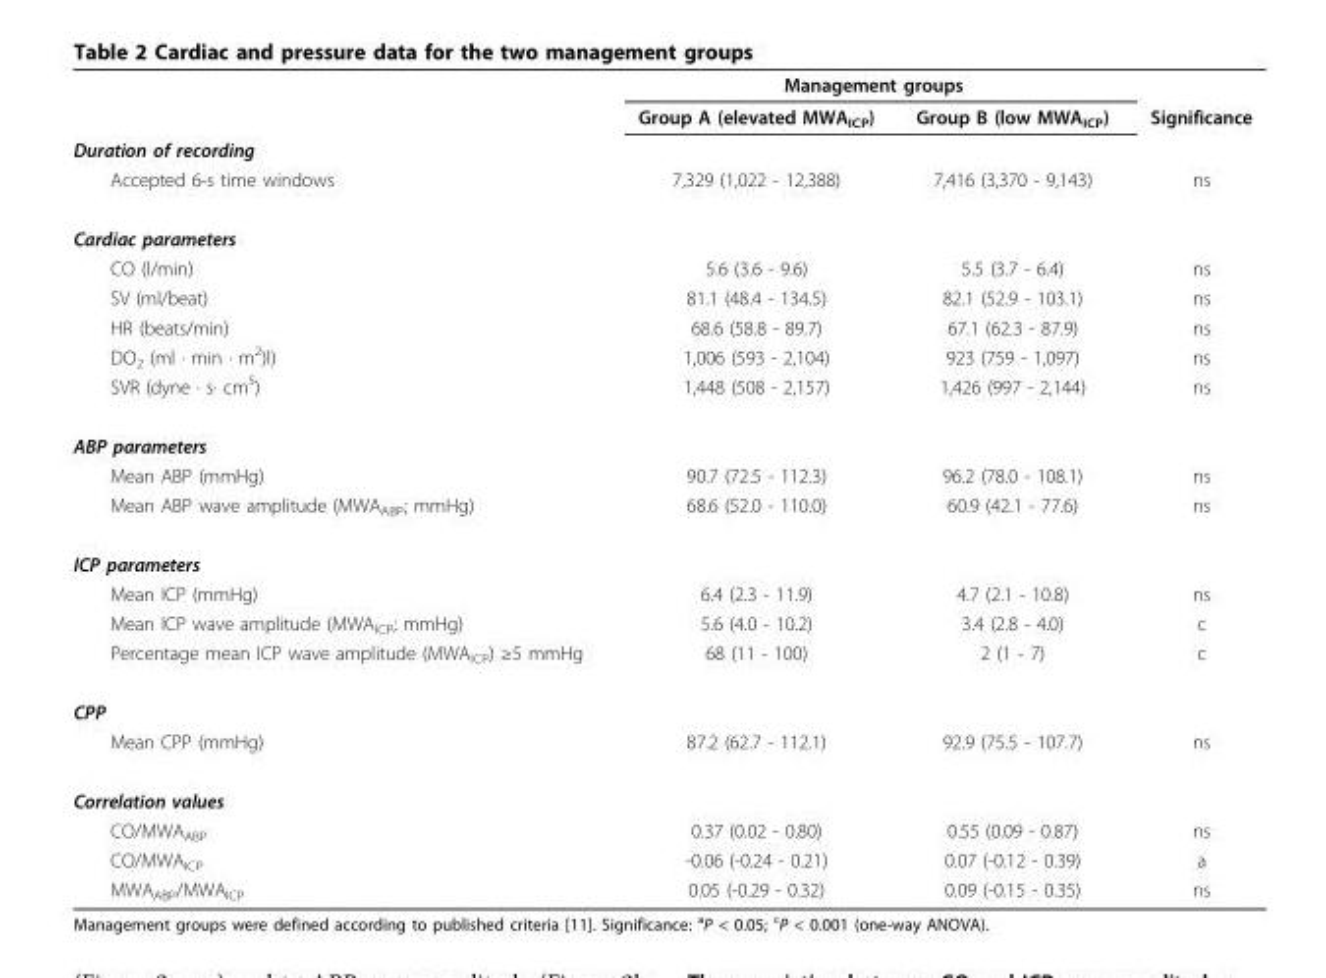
<table><thead><tr><td rowspan="2"></td><td colspan="2">Management groups</td><td rowspan="2">Significance</td></tr><tr><td>Group A (elevated MWA<sub>ICP</sub>)</td><td>Group B (low MWA<sub>ICP</sub>)</td></tr></thead><tbody><tr><td colspan="4">Duration of recording</td></tr><tr><td>Accepted 6-s time windows</td><td>7,329 (1,022 - 12,388)</td><td>7,416 (3,370 - 9,143)</td><td>ns</td></tr><tr><td colspan="4">Cardiac parameters</td></tr><tr><td>CO (l/min)</td><td>5.6 (3.6 - 9.6)</td><td>5.5 (3.7 - 6.4)</td><td>ns</td></tr><tr><td>SV (ml/beat)</td><td>81.1 (48.4 - 134.5)</td><td>82.1 (52.9 - 103.1)</td><td>ns</td></tr><tr><td>HR (beats/min)</td><td>68.6 (58.8 - 89.7)</td><td>67.1 (62.3 - 87.9)</td><td>ns</td></tr><tr><td>DO<sub>2</sub> (ml ∙ min ∙ m<sup>2</sup>)l)</td><td>1,006 (593 - 2,104)</td><td>923 (759 - 1,097)</td><td>ns</td></tr><tr><td>SVR (dyne ∙ s∙ cm<sup>5</sup>)</td><td>1,448 (508 - 2,157)</td><td>1,426 (997 - 2,144)</td><td>ns</td></tr><tr><td colspan="4">ABP parameters</td></tr><tr><td>Mean ABP (mmHg)</td><td>90.7 (72.5 - 112.3)</td><td>96.2 (78.0 - 108.1)</td><td>ns</td></tr><tr><td>Mean ABP wave amplitude (MWA<sub>ABP</sub>; mmHg)</td><td>68.6 (52.0 - 110.0)</td><td>60.9 (42.1 - 77.6)</td><td>ns</td></tr><tr><td colspan="4">ICP parameters</td></tr><tr><td>Mean ICP (mmHg)</td><td>6.4 (2.3 - 11.9)</td><td>4.7 (2.1 - 10.8)</td><td>ns</td></tr><tr><td>Mean ICP wave amplitude (MWA<sub>ICP</sub>; mmHg)</td><td>5.6 (4.0 - 10.2)</td><td>3.4 (2.8 - 4.0)</td><td>c</td></tr><tr><td>Percentage mean ICP wave amplitude (MWA<sub>ICP</sub>) ≥5 mmHg</td><td>68 (11 - 100)</td><td>2 (1 - 7)</td><td>c</td></tr><tr><td colspan="4">CPP</td></tr><tr><td>Mean CPP (mmHg)</td><td>87.2 (62.7 - 112.1)</td><td>92.9 (75.5 - 107.7)</td><td>ns</td></tr><tr><td colspan="4">Correlation values</td></tr><tr><td>CO/MWA<sub>ABP</sub></td><td>0.37 (0.02 - 0.80)</td><td>0.55 (0.09 - 0.87)</td><td>ns</td></tr><tr><td>CO/MWA<sub>ICP</sub></td><td>-0.06 (-0.24 - 0.21)</td><td>0.07 (-0.12 - 0.39)</td><td>a</td></tr><tr><td>MWA<sub>ABP</sub>/MWA<sub>ICP</sub></td><td>0.05 (-0.29 - 0.32)</td><td>0.09 (-0.15 - 0.35)</td><td>ns</td></tr></tbody></table>